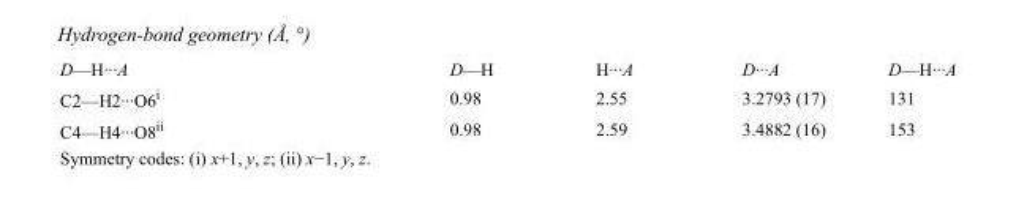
<table><tbody><tr><td>D—H···A</td><td>D—H</td><td>H···A</td><td>D···A</td><td>D—H···A</td></tr><tr><td>C2—H2···O6<sup>i</sup></td><td>0.98</td><td>2.55</td><td>3.2793 (17)</td><td>131</td></tr><tr><td>C4—H4···O8<sup>ii</sup></td><td>0.98</td><td>2.59</td><td>3.4882 (16)</td><td>153</td></tr></tbody></table>